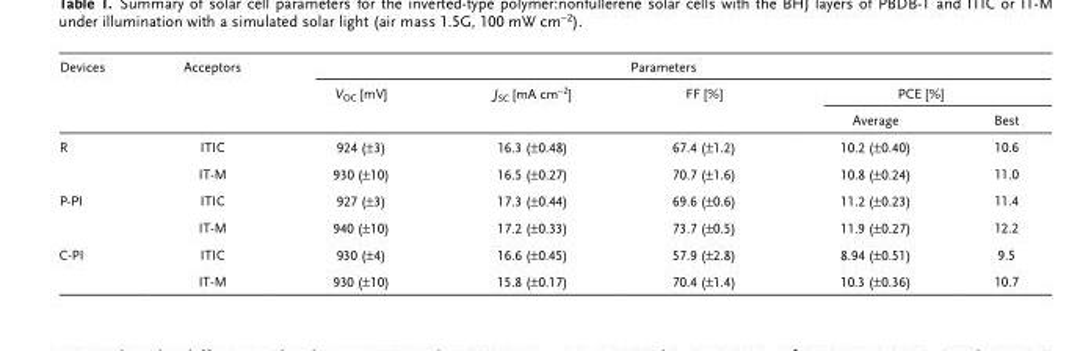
<table><thead><tr><td rowspan="3">Devices</td><td rowspan="3">Acceptors</td><td colspan="5">Parameters</td></tr><tr><td rowspan="2">V<sub>OC</sub> [mV]</td><td rowspan="2">J<sub>SC</sub> [mA cm<sup>−2</sup>]</td><td rowspan="2">FF [%]</td><td colspan="2">PCE [%]</td></tr><tr><td>Average</td><td>Best</td></tr></thead><tbody><tr><td rowspan="2">R</td><td>ITIC</td><td>924 (±3)</td><td>16.3 (±0.48)</td><td>67.4 (±1.2)</td><td>10.2 (±0.40)</td><td>10.6</td></tr><tr><td>IT-M</td><td>930 (±10)</td><td>16.5 (±0.27)</td><td>70.7 (±1.6)</td><td>10.8 (±0.24)</td><td>11.0</td></tr><tr><td rowspan="2">P-PI</td><td>ITIC</td><td>927 (±3)</td><td>17.3 (±0.44)</td><td>69.6 (±0.6)</td><td>11.2 (±0.23)</td><td>11.4</td></tr><tr><td>IT-M</td><td>940 (±10)</td><td>17.2 (±0.33)</td><td>73.7 (±0.5)</td><td>11.9 (±0.27)</td><td>12.2</td></tr><tr><td rowspan="2">C-PI</td><td>ITIC</td><td>930 (±4)</td><td>16.6 (±0.45)</td><td>57.9 (±2.8)</td><td>8.94 (±0.51)</td><td>9.5</td></tr><tr><td>IT-M</td><td>930 (±10)</td><td>15.8 (±0.17)</td><td>70.4 (±1.4)</td><td>10.3 (±0.36)</td><td>10.7</td></tr></tbody></table>